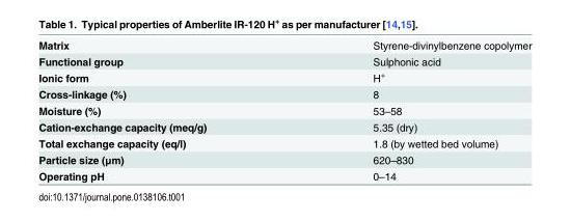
<table><tbody><tr><td>Matrix</td><td>Styrene-divinylbenzene copolymer</td></tr><tr><td>Functional group</td><td>Sulphonic acid</td></tr><tr><td>Ionic form</td><td>H<sup>+</sup></td></tr><tr><td>Cross-linkage (%)</td><td>8</td></tr><tr><td>Moisture (%)</td><td>53–58</td></tr><tr><td>Cation-exchange capacity (meq/g)</td><td>5.35 (dry)</td></tr><tr><td>Total exchange capacity (eq/l)</td><td>1.8 (by wetted bed volume)</td></tr><tr><td>Particle size (μm)</td><td>620–830</td></tr><tr><td>Operating pH</td><td>0–14</td></tr></tbody></table>